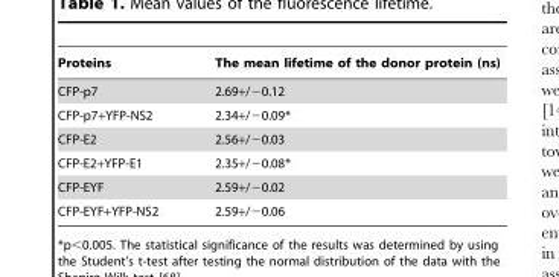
<table><thead><tr><td>Proteins</td><td>The mean lifetime of the donor protein (ns)</td></tr></thead><tbody><tr><td>CFP-p7</td><td>2.69+/−0.12</td></tr><tr><td>CFP-p7+YFP-NS2</td><td>2.34+/−0.09*</td></tr><tr><td>CFP-E2</td><td>2.56+/−0.03</td></tr><tr><td>CFP-E2+YFP-E1</td><td>2.35+/−0.08*</td></tr><tr><td>CFP-EYF</td><td>2.59+/−0.02</td></tr><tr><td>CFP-EYF+YFP-NS2</td><td>2.59+/−0.06</td></tr></tbody></table>